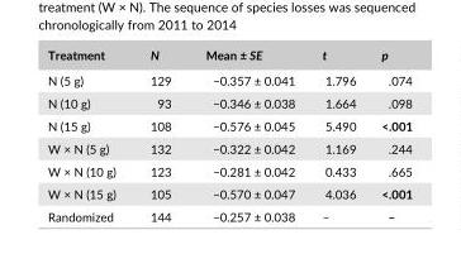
<table><thead><tr><td>Treatment</td><td>N</td><td>Mean ± SE</td><td>t</td><td>p</td></tr></thead><tbody><tr><td>N (5 g)</td><td>129</td><td>−0.357 ± 0.041</td><td>1.796</td><td>.074</td></tr><tr><td>N (10 g)</td><td>93</td><td>−0.346 ± 0.038</td><td>1.664</td><td>.098</td></tr><tr><td>N (15 g)</td><td>108</td><td>−0.576 ± 0.045</td><td>5.490</td><td>&lt;.001</td></tr><tr><td>W × N (5 g)</td><td>132</td><td>−0.322 ± 0.042</td><td>1.169</td><td>.244</td></tr><tr><td>W × N (10 g)</td><td>123</td><td>−0.281 ± 0.042</td><td>0.433</td><td>.665</td></tr><tr><td>W × N (15 g)</td><td>105</td><td>−0.570 ± 0.047</td><td>4.036</td><td>&lt;.001</td></tr><tr><td>Randomized</td><td>144</td><td>−0.257 ± 0.038</td><td>–</td><td>–</td></tr></tbody></table>